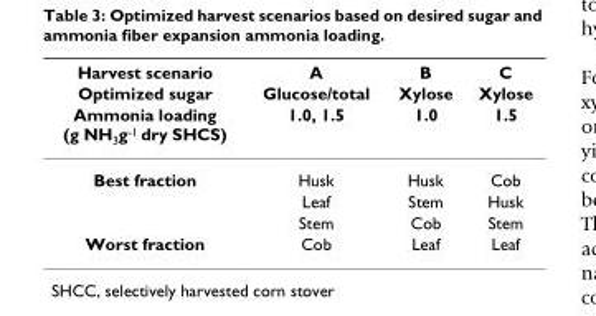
<table><thead><tr><td rowspan="3">Harvest scenario Optimized sugar Ammonia loading (g NH<sub>3</sub>g<sup>-1</sup> dry SHCS)</td><td rowspan="3">A Glucose/total 1.0, 1.5</td><td rowspan="3">B Xylose 1.0</td><td rowspan="3">C Xylose 1.5</td></tr><tr></tr><tr></tr></thead><tbody><tr><td rowspan="3">Best fraction</td><td>Husk</td><td>Husk</td><td>Cob</td></tr><tr><td>Leaf</td><td>Stem</td><td>Husk</td></tr><tr><td>Stem</td><td>Cob</td><td>Stem</td></tr><tr><td>Worst fraction</td><td>Cob</td><td>Leaf</td><td>Leaf</td></tr></tbody></table>